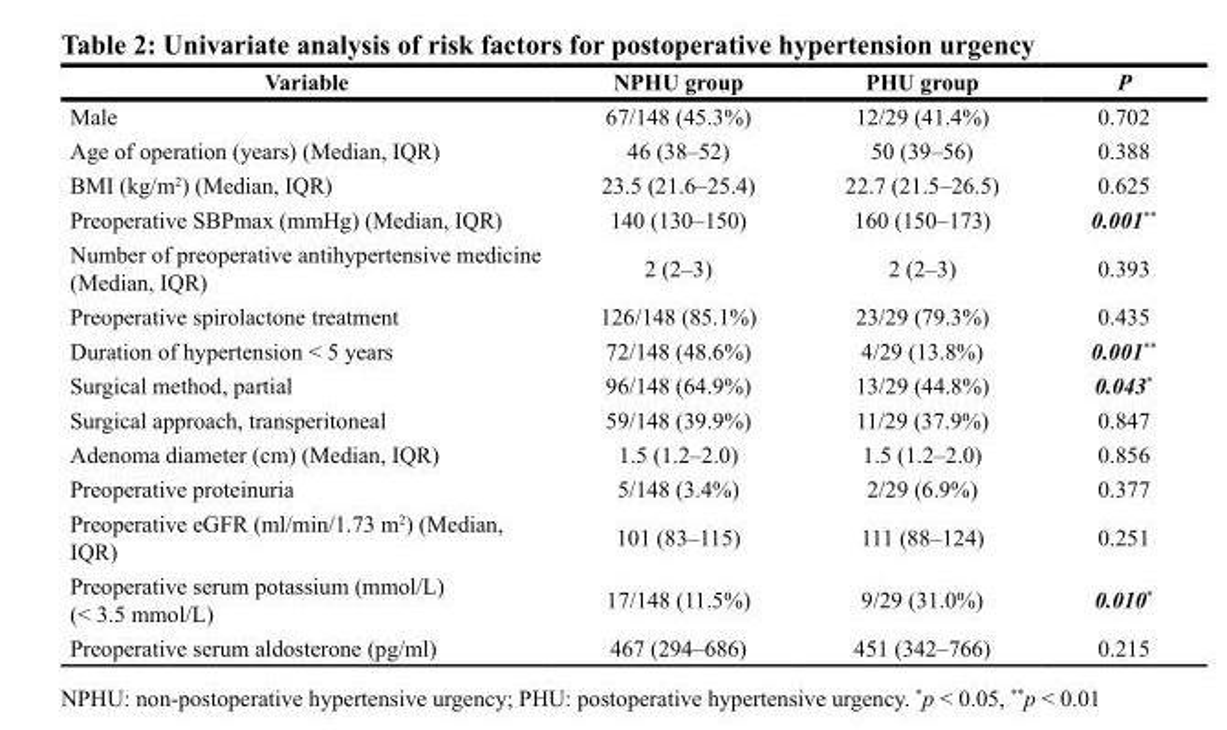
<table><thead><tr><td>Variable</td><td>NPHU group</td><td>PHU group</td><td>P</td></tr></thead><tbody><tr><td>Male</td><td>67/148 (45.3%)</td><td>12/29 (41.4%)</td><td>0.702</td></tr><tr><td>Age of operation (years) (Median, IQR)</td><td>46 (38–52)</td><td>50 (39–56)</td><td>0.388</td></tr><tr><td>BMI (kg/m<sup>2</sup>) (Median, IQR)</td><td>23.5 (21.6–25.4)</td><td>22.7 (21.5–26.5)</td><td>0.625</td></tr><tr><td>Preoperative SBPmax (mmHg) (Median, IQR)</td><td>140 (130–150)</td><td>160 (150–173)</td><td>0.001**</td></tr><tr><td>Number of preoperative antihypertensive medicine (Median, IQR)</td><td>2 (2–3)</td><td>2 (2–3)</td><td>0.393</td></tr><tr><td>Preoperative spirolactone treatment</td><td>126/148 (85.1%)</td><td>23/29 (79.3%)</td><td>0.435</td></tr><tr><td>Duration of hypertension &lt; 5 years</td><td>72/148 (48.6%)</td><td>4/29 (13.8%)</td><td>0.001**</td></tr><tr><td>Surgical method, partial</td><td>96/148 (64.9%)</td><td>13/29 (44.8%)</td><td>0.043*</td></tr><tr><td>Surgical approach, transperitoneal</td><td>59/148 (39.9%)</td><td>11/29 (37.9%)</td><td>0.847</td></tr><tr><td>Adenoma diameter (cm) (Median, IQR)</td><td>1.5 (1.2–2.0)</td><td>1.5 (1.2–2.0)</td><td>0.856</td></tr><tr><td>Preoperative proteinuria</td><td>5/148 (3.4%)</td><td>2/29 (6.9%)</td><td>0.377</td></tr><tr><td>Preoperative eGFR (ml/min/1.73 m<sup>2</sup>) (Median, IQR)</td><td>101 (83–115)</td><td>111 (88–124)</td><td>0.251</td></tr><tr><td>Preoperative serum potassium (mmol/L) (&lt; 3.5 mmol/L)</td><td>17/148 (11.5%)</td><td>9/29 (31.0%)</td><td>0.010*</td></tr><tr><td>Preoperative serum aldosterone (pg/ml)</td><td>467 (294–686)</td><td>451 (342–766)</td><td>0.215</td></tr></tbody></table>